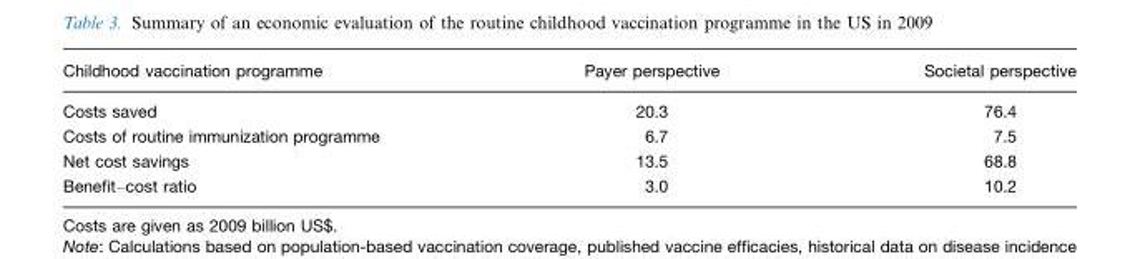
<table><thead><tr><td>Childhood vaccination programme</td><td>Payer perspective</td><td>Societal perspective</td></tr></thead><tbody><tr><td>Costs saved</td><td>20.3</td><td>76.4</td></tr><tr><td>Costs of routine immunization programme</td><td>6.7</td><td>7.5</td></tr><tr><td>Net cost savings</td><td>13.5</td><td>68.8</td></tr><tr><td>Benefit–cost ratio</td><td>3.0</td><td>10.2</td></tr></tbody></table>